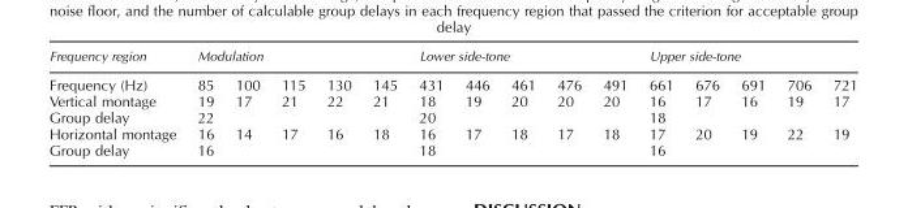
<table><thead><tr><td rowspan="2">Frequency region Frequency (Hz)</td><td colspan="5">Modulation</td><td colspan="5">Lower side-tone</td><td colspan="5">Upper side-tone</td></tr><tr><td>85</td><td>100</td><td>115</td><td>130</td><td>145</td><td>431</td><td>446</td><td>461</td><td>476</td><td>491</td><td>661</td><td>676</td><td>691</td><td>706</td><td>721</td></tr></thead><tbody><tr><td>Vertical montage</td><td>19</td><td>17</td><td>21</td><td>22</td><td>21</td><td>18</td><td>19</td><td>20</td><td>20</td><td>20</td><td>16</td><td>17</td><td>16</td><td>19</td><td>17</td></tr><tr><td>Group delay</td><td colspan="5">22</td><td colspan="5">20</td><td colspan="5">18</td></tr><tr><td>Horizontal montage</td><td>16</td><td>14</td><td>17</td><td>16</td><td>18</td><td>16</td><td>17</td><td>18</td><td>17</td><td>18</td><td>17</td><td>20</td><td>19</td><td>22</td><td>19</td></tr><tr><td>Group delay</td><td colspan="5">16</td><td colspan="5">18</td><td colspan="5">16</td></tr></tbody></table>